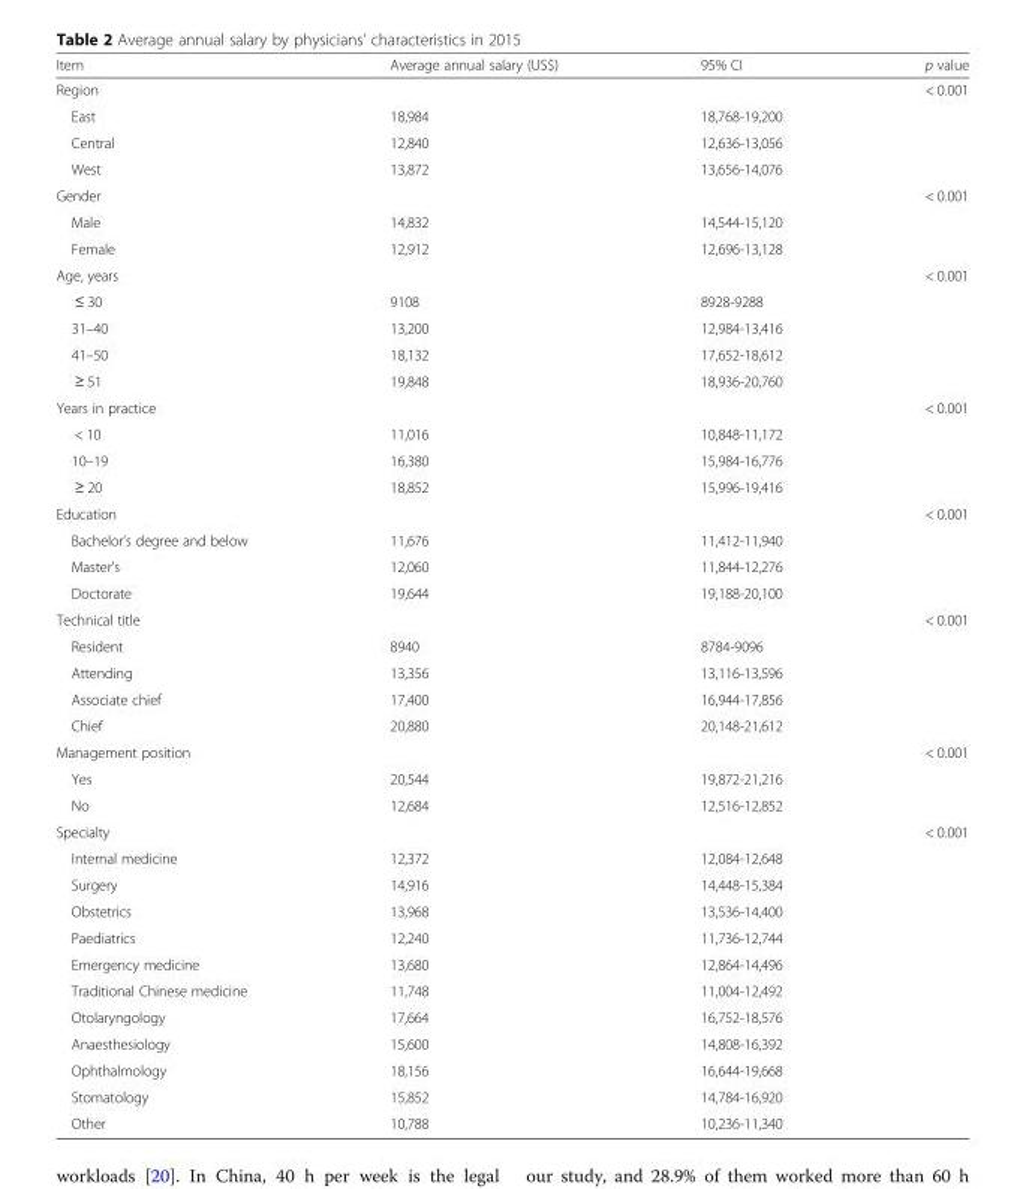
<table><thead><tr><td>Item</td><td>Average annual salary (US$)</td><td>95% CI</td><td>p value</td></tr></thead><tbody><tr><td colspan="3">Region</td><td>&lt; 0.001</td></tr><tr><td>East</td><td>18,984</td><td>18,768-19,200</td><td></td></tr><tr><td>Central</td><td>12,840</td><td>12,636-13,056</td><td></td></tr><tr><td>West</td><td>13,872</td><td>13,656-14,076</td><td></td></tr><tr><td colspan="3">Gender</td><td>&lt; 0.001</td></tr><tr><td>Male</td><td>14,832</td><td>14,544-15,120</td><td></td></tr><tr><td>Female</td><td>12,912</td><td>12,696-13,128</td><td></td></tr><tr><td colspan="3">Age, years</td><td>&lt; 0.001</td></tr><tr><td>≤ 30</td><td>9108</td><td>8928-9288</td><td></td></tr><tr><td>31–40</td><td>13,200</td><td>12,984-13,416</td><td></td></tr><tr><td>41–50</td><td>18,132</td><td>17,652-18,612</td><td></td></tr><tr><td>≥ 51</td><td>19,848</td><td>18,936-20,760</td><td></td></tr><tr><td colspan="3">Years in practice</td><td>&lt; 0.001</td></tr><tr><td>&lt; 10</td><td>11,016</td><td>10,848-11,172</td><td></td></tr><tr><td>10–19</td><td>16,380</td><td>15,984-16,776</td><td></td></tr><tr><td>≥ 20</td><td>18,852</td><td>15,996-19,416</td><td></td></tr><tr><td colspan="3">Education</td><td>&lt; 0.001</td></tr><tr><td>Bachelor’s degree and below</td><td>11,676</td><td>11,412-11,940</td><td></td></tr><tr><td>Master’s</td><td>12,060</td><td>11,844-12,276</td><td></td></tr><tr><td>Doctorate</td><td>19,644</td><td>19,188-20,100</td><td></td></tr><tr><td colspan="3">Technical title</td><td>&lt; 0.001</td></tr><tr><td>Resident</td><td>8940</td><td>8784-9096</td><td></td></tr><tr><td>Attending</td><td>13,356</td><td>13,116-13,596</td><td></td></tr><tr><td>Associate chief</td><td>17,400</td><td>16,944-17,856</td><td></td></tr><tr><td>Chief</td><td>20,880</td><td>20,148-21,612</td><td></td></tr><tr><td colspan="3">Management position</td><td>&lt; 0.001</td></tr><tr><td>Yes</td><td>20,544</td><td>19,872-21,216</td><td></td></tr><tr><td>No</td><td>12,684</td><td>12,516-12,852</td><td></td></tr><tr><td colspan="3">Specialty</td><td>&lt; 0.001</td></tr><tr><td>Internal medicine</td><td>12,372</td><td>12,084-12,648</td><td></td></tr><tr><td>Surgery</td><td>14,916</td><td>14,448-15,384</td><td></td></tr><tr><td>Obstetrics</td><td>13,968</td><td>13,536-14,400</td><td></td></tr><tr><td>Paediatrics</td><td>12,240</td><td>11,736-12,744</td><td></td></tr><tr><td>Emergency medicine</td><td>13,680</td><td>12,864-14,496</td><td></td></tr><tr><td>Traditional Chinese medicine</td><td>11,748</td><td>11,004-12,492</td><td></td></tr><tr><td>Otolaryngology</td><td>17,664</td><td>16,752-18,576</td><td></td></tr><tr><td>Anaesthesiology</td><td>15,600</td><td>14,808-16,392</td><td></td></tr><tr><td>Ophthalmology</td><td>18,156</td><td>16,644-19,668</td><td></td></tr><tr><td>Stomatology</td><td>15,852</td><td>14,784-16,920</td><td></td></tr><tr><td>Other</td><td>10,788</td><td>10,236-11,340</td><td></td></tr></tbody></table>